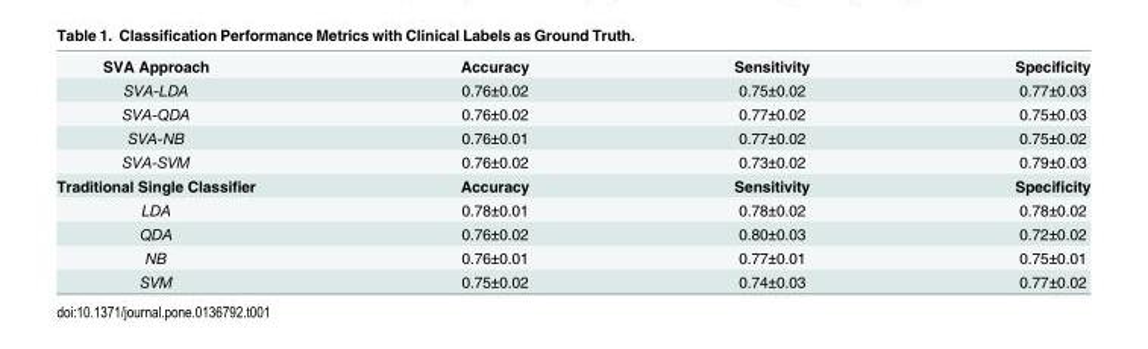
<table><tbody><tr><td>SVA Approach</td><td>Accuracy</td><td>Sensitivity</td><td>Specificity</td></tr><tr><td>SVA-LDA</td><td>0.76±0.02</td><td>0.75±0.02</td><td>0.77±0.03</td></tr><tr><td>SVA-QDA</td><td>0.76±0.02</td><td>0.77±0.02</td><td>0.75±0.03</td></tr><tr><td>SVA-NB</td><td>0.76±0.01</td><td>0.77±0.02</td><td>0.75±0.02</td></tr><tr><td>SVA-SVM</td><td>0.76±0.02</td><td>0.73±0.02</td><td>0.79±0.03</td></tr><tr><td>Traditional Single Classifier</td><td>Accuracy</td><td>Sensitivity</td><td>Specificity</td></tr><tr><td>LDA</td><td>0.78±0.01</td><td>0.78±0.02</td><td>0.78±0.02</td></tr><tr><td>QDA</td><td>0.76±0.02</td><td>0.80±0.03</td><td>0.72±0.02</td></tr><tr><td>NB</td><td>0.76±0.01</td><td>0.77±0.01</td><td>0.75±0.01</td></tr><tr><td>SVM</td><td>0.75±0.02</td><td>0.74±0.03</td><td>0.77±0.02</td></tr></tbody></table>